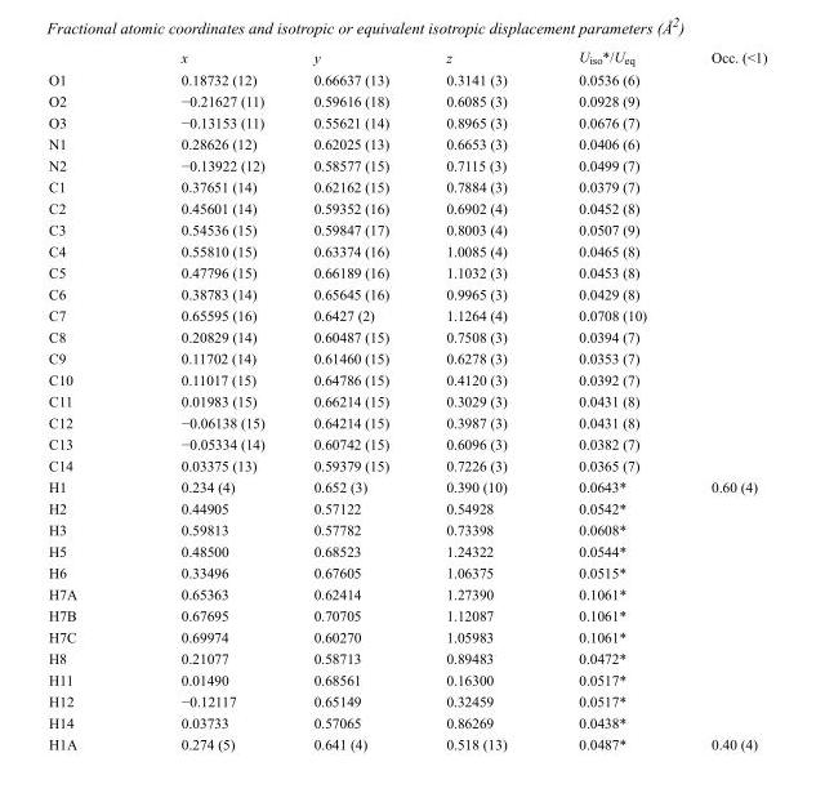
<table><thead><tr><td></td><td>x</td><td>y</td><td>z</td><td>U<sub>iso</sub>*/U<sub>eq</sub></td><td>Occ. (&lt;1)</td></tr></thead><tbody><tr><td>O1</td><td>0.18732 (12)</td><td>0.66637 (13)</td><td>0.3141 (3)</td><td>0.0536 (6)</td><td></td></tr><tr><td>O2</td><td>−0.21627 (11)</td><td>0.59616 (18)</td><td>0.6085 (3)</td><td>0.0928 (9)</td><td></td></tr><tr><td>O3</td><td>−0.13153 (11)</td><td>0.55621 (14)</td><td>0.8965 (3)</td><td>0.0676 (7)</td><td></td></tr><tr><td>N1</td><td>0.28626 (12)</td><td>0.62025 (13)</td><td>0.6653 (3)</td><td>0.0406 (6)</td><td></td></tr><tr><td>N2</td><td>−0.13922 (12)</td><td>0.58577 (15)</td><td>0.7115 (3)</td><td>0.0499 (7)</td><td></td></tr><tr><td>C1</td><td>0.37651 (14)</td><td>0.62162 (15)</td><td>0.7884 (3)</td><td>0.0379 (7)</td><td></td></tr><tr><td>C2</td><td>0.45601 (14)</td><td>0.59352 (16)</td><td>0.6902 (4)</td><td>0.0452 (8)</td><td></td></tr><tr><td>C3</td><td>0.54536 (15)</td><td>0.59847 (17)</td><td>0.8003 (4)</td><td>0.0507 (9)</td><td></td></tr><tr><td>C4</td><td>0.55810 (15)</td><td>0.63374 (16)</td><td>1.0085 (4)</td><td>0.0465 (8)</td><td></td></tr><tr><td>C5</td><td>0.47796 (15)</td><td>0.66189 (16)</td><td>1.1032 (3)</td><td>0.0453 (8)</td><td></td></tr><tr><td>C6</td><td>0.38783 (14)</td><td>0.65645 (16)</td><td>0.9965 (3)</td><td>0.0429 (8)</td><td></td></tr><tr><td>C7</td><td>0.65595 (16)</td><td>0.6427 (2)</td><td>1.1264 (4)</td><td>0.0708 (10)</td><td></td></tr><tr><td>C8</td><td>0.20829 (14)</td><td>0.60487 (15)</td><td>0.7508 (3)</td><td>0.0394 (7)</td><td></td></tr><tr><td>C9</td><td>0.11702 (14)</td><td>0.61460 (15)</td><td>0.6278 (3)</td><td>0.0353 (7)</td><td></td></tr><tr><td>C10</td><td>0.11017 (15)</td><td>0.64786 (15)</td><td>0.4120 (3)</td><td>0.0392 (7)</td><td></td></tr><tr><td>C11</td><td>0.01983 (15)</td><td>0.66214 (15)</td><td>0.3029 (3)</td><td>0.0431 (8)</td><td></td></tr><tr><td>C12</td><td>−0.06138 (15)</td><td>0.64214 (15)</td><td>0.3987 (3)</td><td>0.0431 (8)</td><td></td></tr><tr><td>C13</td><td>−0.05334 (14)</td><td>0.60742 (15)</td><td>0.6096 (3)</td><td>0.0382 (7)</td><td></td></tr><tr><td>C14</td><td>0.03375 (13)</td><td>0.59379 (15)</td><td>0.7226 (3)</td><td>0.0365 (7)</td><td></td></tr><tr><td>H1</td><td>0.234 (4)</td><td>0.652 (3)</td><td>0.390 (10)</td><td>0.0643*</td><td>0.60 (4)</td></tr><tr><td>H2</td><td>0.44905</td><td>0.57122</td><td>0.54928</td><td>0.0542*</td><td></td></tr><tr><td>H3</td><td>0.59813</td><td>0.57782</td><td>0.73398</td><td>0.0608*</td><td></td></tr><tr><td>H5</td><td>0.48500</td><td>0.68523</td><td>1.24322</td><td>0.0544*</td><td></td></tr><tr><td>H6</td><td>0.33496</td><td>0.67605</td><td>1.06375</td><td>0.0515*</td><td></td></tr><tr><td>H7A</td><td>0.65363</td><td>0.62414</td><td>1.27390</td><td>0.1061*</td><td></td></tr><tr><td>H7B</td><td>0.67695</td><td>0.70705</td><td>1.12087</td><td>0.1061*</td><td></td></tr><tr><td>H7C</td><td>0.69974</td><td>0.60270</td><td>1.05983</td><td>0.1061*</td><td></td></tr><tr><td>H8</td><td>0.21077</td><td>0.58713</td><td>0.89483</td><td>0.0472*</td><td></td></tr><tr><td>H11</td><td>0.01490</td><td>0.68561</td><td>0.16300</td><td>0.0517*</td><td></td></tr><tr><td>H12</td><td>−0.12117</td><td>0.65149</td><td>0.32459</td><td>0.0517*</td><td></td></tr><tr><td>H14</td><td>0.03733</td><td>0.57065</td><td>0.86269</td><td>0.0438*</td><td></td></tr><tr><td>H1A</td><td>0.274 (5)</td><td>0.641 (4)</td><td>0.518 (13)</td><td>0.0487*</td><td>0.40 (4)</td></tr></tbody></table>